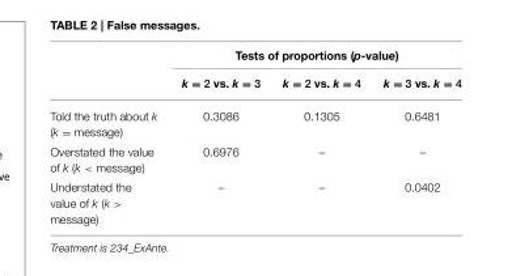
<table><thead><tr><td rowspan="2"></td><td colspan="3">Tests of proportions (p-value)</td></tr><tr><td>k = 2 vs. k = 3</td><td>k = 2 vs. k = 4</td><td>k = 3 vs. k = 4</td></tr></thead><tbody><tr><td>Told the truth about k (k = message)</td><td>0.3086</td><td>0.1305</td><td>0.6481</td></tr><tr><td>Overstated the value of k (k &lt; message)</td><td>0.6976</td><td>–</td><td>–</td></tr><tr><td>Understated the value of k (k &gt; message)</td><td>–</td><td>–</td><td>0.0402</td></tr></tbody></table>